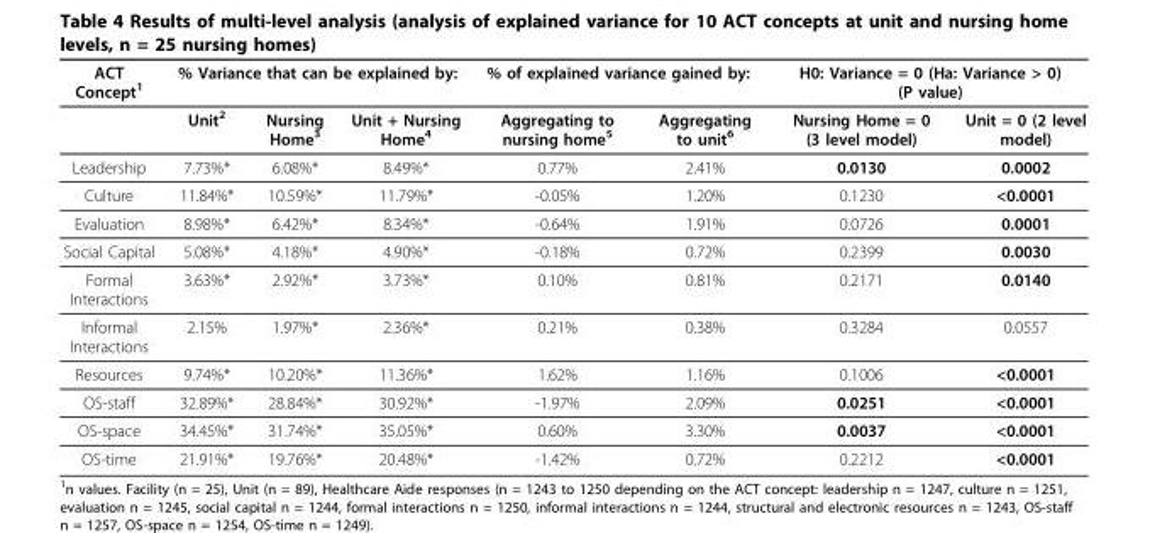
<table><thead><tr><td rowspan="2">ACT Concept<sup>1</sup></td><td colspan="3">% Variance that can be explained by:</td><td colspan="2">% of explained variance gained by:</td><td colspan="2">H0: Variance = 0 (Ha: Variance &gt; 0) (P value)</td></tr><tr><td>Unit<sup>2</sup></td><td>Nursing Home<sup>3</sup></td><td>Unit + Nursing Home<sup>4</sup></td><td>Aggregating to nursing home<sup>5</sup></td><td>Aggregating to unit<sup>6</sup></td><td>Nursing Home = 0 (3 level model)</td><td>Unit = 0 (2 level model)</td></tr></thead><tbody><tr><td>Leadership</td><td>7.73%*</td><td>6.08%*</td><td>8.49%*</td><td>0.77%</td><td>2.41%</td><td>0.0130</td><td>0.0002</td></tr><tr><td>Culture</td><td>11.84%*</td><td>10.59%*</td><td>11.79%*</td><td>-0.05%</td><td>1.20%</td><td>0.1230</td><td>&lt;0.0001</td></tr><tr><td>Evaluation</td><td>8.98%*</td><td>6.42%*</td><td>8.34%*</td><td>-0.64%</td><td>1.91%</td><td>0.0726</td><td>0.0001</td></tr><tr><td>Social Capital</td><td>5.08%*</td><td>4.18%*</td><td>4.90%*</td><td>-0.18%</td><td>0.72%</td><td>0.2399</td><td>0.0030</td></tr><tr><td>Formal Interactions</td><td>3.63%*</td><td>2.92%*</td><td>3.73%*</td><td>0.10%</td><td>0.81%</td><td>0.2171</td><td>0.0140</td></tr><tr><td>Informal Interactions</td><td>2.15%</td><td>1.97%*</td><td>2.36%*</td><td>0.21%</td><td>0.38%</td><td>0.3284</td><td>0.0557</td></tr><tr><td>Resources</td><td>9.74%*</td><td>10.20%*</td><td>11.36%*</td><td>1.62%</td><td>1.16%</td><td>0.1006</td><td>&lt;0.0001</td></tr><tr><td>OS-staff</td><td>32.89%*</td><td>28.84%*</td><td>30.92%*</td><td>-1.97%</td><td>2.09%</td><td>0.0251</td><td>&lt;0.0001</td></tr><tr><td>OS-space</td><td>34.45%*</td><td>31.74%*</td><td>35.05%*</td><td>0.60%</td><td>3.30%</td><td>0.0037</td><td>&lt;0.0001</td></tr><tr><td>OS-time</td><td>21.91%*</td><td>19.76%*</td><td>20.48%*</td><td>-1.42%</td><td>0.72%</td><td>0.2212</td><td>&lt;0.0001</td></tr></tbody></table>